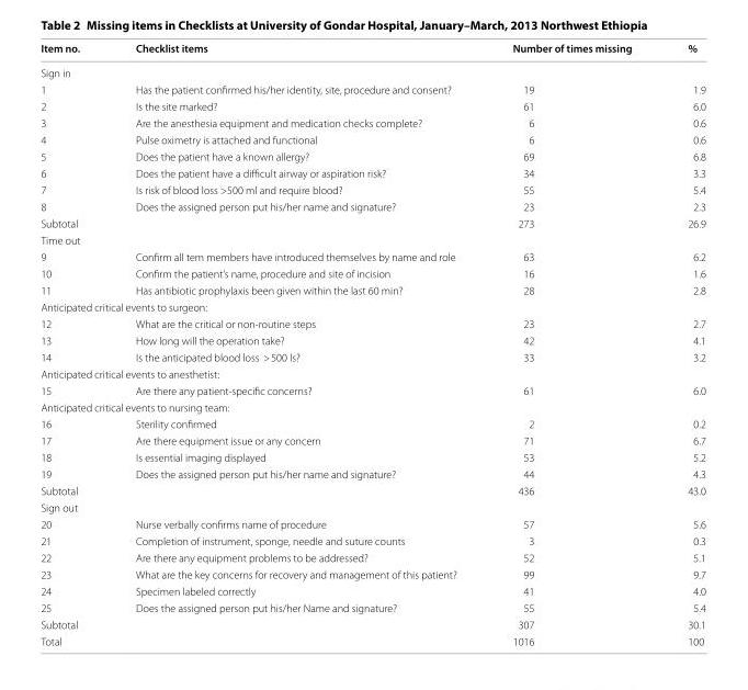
<table><thead><tr><td>Item no.</td><td>Checklist items</td><td>Number of times missing</td><td>%</td></tr></thead><tbody><tr><td colspan="4">Sign in</td></tr><tr><td>1</td><td>Has the patient confirmed his/her identity, site, procedure and consent?</td><td>19</td><td>1.9</td></tr><tr><td>2</td><td>Is the site marked?</td><td>61</td><td>6.0</td></tr><tr><td>3</td><td>Are the anesthesia equipment and medication checks complete?</td><td>6</td><td>0.6</td></tr><tr><td>4</td><td>Pulse oximetry is attached and functional</td><td>6</td><td>0.6</td></tr><tr><td>5</td><td>Does the patient have a known allergy?</td><td>69</td><td>6.8</td></tr><tr><td>6</td><td>Does the patient have a difficult airway or aspiration risk?</td><td>34</td><td>3.3</td></tr><tr><td>7</td><td>Is risk of blood loss &gt;500 ml and require blood?</td><td>55</td><td>5.4</td></tr><tr><td>8</td><td>Does the assigned person put his/her name and signature?</td><td>23</td><td>2.3</td></tr><tr><td colspan="2">Subtotal</td><td>273</td><td>26.9</td></tr><tr><td colspan="4">Time out</td></tr><tr><td>9</td><td>Confirm all tem members have introduced themselves by name and role</td><td>63</td><td>6.2</td></tr><tr><td>10</td><td>Confirm the patient’s name, procedure and site of incision</td><td>16</td><td>1.6</td></tr><tr><td>11</td><td>Has antibiotic prophylaxis been given within the last 60 min?</td><td>28</td><td>2.8</td></tr><tr><td colspan="4">Anticipated critical events to surgeon:</td></tr><tr><td>12</td><td>What are the critical or non-routine steps</td><td>23</td><td>2.7</td></tr><tr><td>13</td><td>How long will the operation take?</td><td>42</td><td>4.1</td></tr><tr><td>14</td><td>Is the anticipated blood loss &gt; 500 ls?</td><td>33</td><td>3.2</td></tr><tr><td colspan="4">Anticipated critical events to anesthetist:</td></tr><tr><td>15</td><td>Are there any patient-specific concerns?</td><td>61</td><td>6.0</td></tr><tr><td colspan="4">Anticipated critical events to nursing team:</td></tr><tr><td>16</td><td>Sterility confirmed</td><td>2</td><td>0.2</td></tr><tr><td>17</td><td>Are there equipment issue or any concern</td><td>71</td><td>6.7</td></tr><tr><td>18</td><td>Is essential imaging displayed</td><td>53</td><td>5.2</td></tr><tr><td>19</td><td>Does the assigned person put his/her name and signature?</td><td>44</td><td>4.3</td></tr><tr><td colspan="2">Subtotal</td><td>436</td><td>43.0</td></tr><tr><td colspan="4">Sign out</td></tr><tr><td>20</td><td>Nurse verbally confirms name of procedure</td><td>57</td><td>5.6</td></tr><tr><td>21</td><td>Completion of instrument, sponge, needle and suture counts</td><td>3</td><td>0.3</td></tr><tr><td>22</td><td>Are there any equipment problems to be addressed?</td><td>52</td><td>5.1</td></tr><tr><td>23</td><td>What are the key concerns for recovery and management of this patient?</td><td>99</td><td>9.7</td></tr><tr><td>24</td><td>Specimen labeled correctly</td><td>41</td><td>4.0</td></tr><tr><td>25</td><td>Does the assigned person put his/her Name and signature?</td><td>55</td><td>5.4</td></tr><tr><td colspan="2">Subtotal</td><td>307</td><td>30.1</td></tr><tr><td colspan="2">Total</td><td>1016</td><td>100</td></tr></tbody></table>